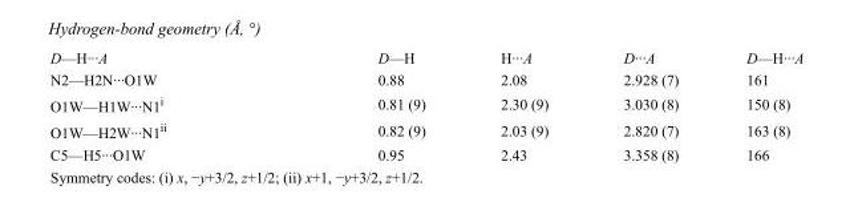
<table><tbody><tr><td>D—H···A</td><td>D—H</td><td>H···A</td><td>D···A</td><td>D—H···A</td></tr><tr><td>N2—H2N···O1W</td><td>0.88</td><td>2.08</td><td>2.928 (7)</td><td>161</td></tr><tr><td>O1W—H1W···N1<sup>i</sup></td><td>0.81 (9)</td><td>2.30 (9)</td><td>3.030 (8)</td><td>150 (8)</td></tr><tr><td>O1W—H2W···N1<sup>ii</sup></td><td>0.82 (9)</td><td>2.03 (9)</td><td>2.820 (7)</td><td>163 (8)</td></tr><tr><td>C5—H5···O1W</td><td>0.95</td><td>2.43</td><td>3.358 (8)</td><td>166</td></tr></tbody></table>